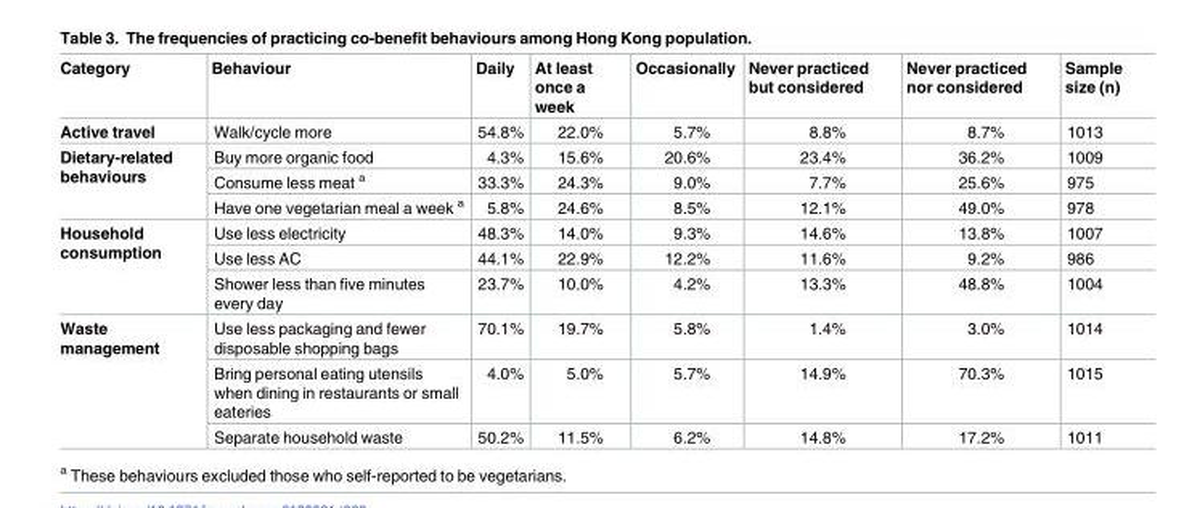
<table><thead><tr><td>Category</td><td>Behaviour</td><td>Daily</td><td>At least once a week</td><td>Occasionally</td><td>Never practiced but considered</td><td>Never practiced nor considered</td><td>Sample size (n)</td></tr></thead><tbody><tr><td>Active travel</td><td>Walk/cycle more</td><td>54.8%</td><td>22.0%</td><td>5.7%</td><td>8.8%</td><td>8.7%</td><td>1013</td></tr><tr><td rowspan="3">Dietary-related behaviours</td><td>Buy more organic food</td><td>4.3%</td><td>15.6%</td><td>20.6%</td><td>23.4%</td><td>36.2%</td><td>1009</td></tr><tr><td>Consume less meat <sup>a</sup></td><td>33.3%</td><td>24.3%</td><td>9.0%</td><td>7.7%</td><td>25.6%</td><td>975</td></tr><tr><td>Have one vegetarian meal a week <sup>a</sup></td><td>5.8%</td><td>24.6%</td><td>8.5%</td><td>12.1%</td><td>49.0%</td><td>978</td></tr><tr><td rowspan="3">Household consumption</td><td>Use less electricity</td><td>48.3%</td><td>14.0%</td><td>9.3%</td><td>14.6%</td><td>13.8%</td><td>1007</td></tr><tr><td>Use less AC</td><td>44.1%</td><td>22.9%</td><td>12.2%</td><td>11.6%</td><td>9.2%</td><td>986</td></tr><tr><td>Shower less than five minutes every day</td><td>23.7%</td><td>10.0%</td><td>4.2%</td><td>13.3%</td><td>48.8%</td><td>1004</td></tr><tr><td rowspan="3">Waste management</td><td>Use less packaging and fewer disposable shopping bags</td><td>70.1%</td><td>19.7%</td><td>5.8%</td><td>1.4%</td><td>3.0%</td><td>1014</td></tr><tr><td>Bring personal eating utensils when dining in restaurants or small eateries</td><td>4.0%</td><td>5.0%</td><td>5.7%</td><td>14.9%</td><td>70.3%</td><td>1015</td></tr><tr><td>Separate household waste</td><td>50.2%</td><td>11.5%</td><td>6.2%</td><td>14.8%</td><td>17.2%</td><td>1011</td></tr></tbody></table>